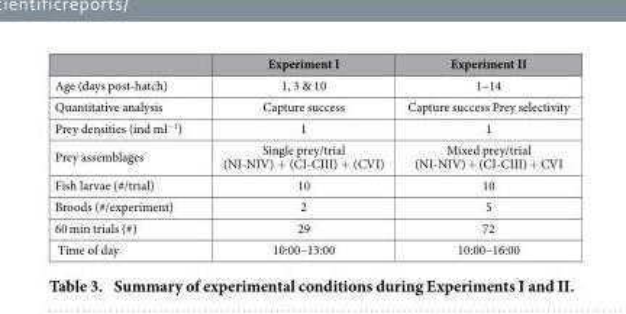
<table><thead><tr><td></td><td>Experiment I</td><td>Experiment II</td></tr></thead><tbody><tr><td>Age (days post-hatch)</td><td>1, 3 &amp; 10</td><td>1–14</td></tr><tr><td>Quantitative analysis</td><td>Capture success</td><td>Capture success Prey selectivity</td></tr><tr><td>Prey densities (ind ml<sup>−1</sup>)</td><td>1</td><td>1</td></tr><tr><td>Prey assemblages</td><td>Single prey/trial (NI-NIV) + (CI-CIII) + (CVI)</td><td>Mixed prey/trial (NI-NIV) + (CI-CIII) + CVI</td></tr><tr><td>Fish larvae (#/trial)</td><td>10</td><td>10</td></tr><tr><td>Broods (#/experiment)</td><td>2</td><td>5</td></tr><tr><td>60 min trials (#)</td><td>29</td><td>72</td></tr><tr><td>Time of day</td><td>10:00–13:00</td><td>10:00–16:00</td></tr></tbody></table>